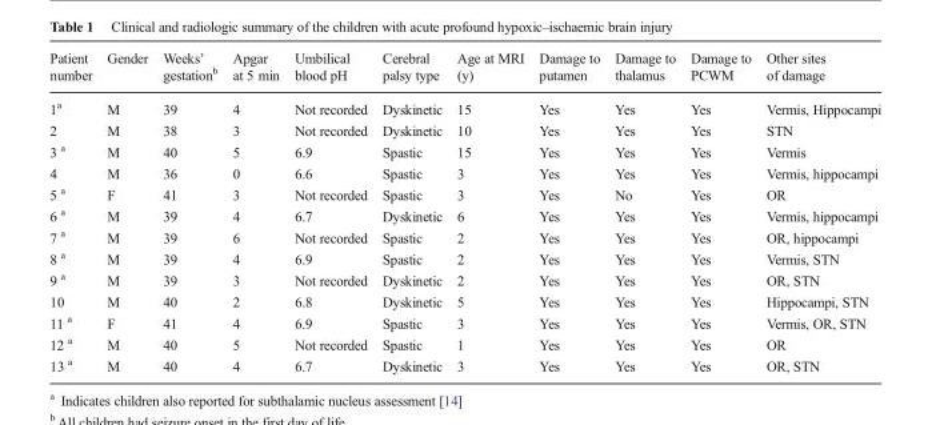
<table><thead><tr><td>Patient number</td><td>Gender</td><td>Weeks’ gestation<sup>b</sup></td><td>Apgar at 5 min</td><td>Umbilical blood pH</td><td>Cerebral palsy type</td><td>Age at MRI (y)</td><td>Damage to putamen</td><td>Damage to thalamus</td><td>Damage to PCWM</td><td>Other sites of damage</td></tr></thead><tbody><tr><td>1<sup>a</sup></td><td>M</td><td>39</td><td>4</td><td>Not recorded</td><td>Dyskinetic</td><td>15</td><td>Yes</td><td>Yes</td><td>Yes</td><td>Vermis, Hippocampi</td></tr><tr><td>2</td><td>M</td><td>38</td><td>3</td><td>Not recorded</td><td>Dyskinetic</td><td>10</td><td>Yes</td><td>Yes</td><td>Yes</td><td>STN</td></tr><tr><td>3 <sup>a</sup></td><td>M</td><td>40</td><td>5</td><td>6.9</td><td>Spastic</td><td>15</td><td>Yes</td><td>Yes</td><td>Yes</td><td>Vermis</td></tr><tr><td>4</td><td>M</td><td>36</td><td>0</td><td>6.6</td><td>Spastic</td><td>3</td><td>Yes</td><td>Yes</td><td>Yes</td><td>Vermis, hippocampi</td></tr><tr><td>5 <sup>a</sup></td><td>F</td><td>41</td><td>3</td><td>Not recorded</td><td>Spastic</td><td>3</td><td>Yes</td><td>No</td><td>Yes</td><td>OR</td></tr><tr><td>6 <sup>a</sup></td><td>M</td><td>39</td><td>4</td><td>6.7</td><td>Dyskinetic</td><td>6</td><td>Yes</td><td>Yes</td><td>Yes</td><td>Vermis, hippocampi</td></tr><tr><td>7 <sup>a</sup></td><td>M</td><td>39</td><td>6</td><td>Not recorded</td><td>Spastic</td><td>2</td><td>Yes</td><td>Yes</td><td>Yes</td><td>OR, hippocampi</td></tr><tr><td>8 <sup>a</sup></td><td>M</td><td>39</td><td>4</td><td>6.9</td><td>Spastic</td><td>2</td><td>Yes</td><td>Yes</td><td>Yes</td><td>Vermis, STN</td></tr><tr><td>9 <sup>a</sup></td><td>M</td><td>39</td><td>3</td><td>Not recorded</td><td>Dyskinetic</td><td>2</td><td>Yes</td><td>Yes</td><td>Yes</td><td>OR, STN</td></tr><tr><td>10</td><td>M</td><td>40</td><td>2</td><td>6.8</td><td>Dyskinetic</td><td>5</td><td>Yes</td><td>Yes</td><td>Yes</td><td>Hippocampi, STN</td></tr><tr><td>11 <sup>a</sup></td><td>F</td><td>41</td><td>4</td><td>6.9</td><td>Spastic</td><td>3</td><td>Yes</td><td>Yes</td><td>Yes</td><td>Vermis, OR, STN</td></tr><tr><td>12 <sup>a</sup></td><td>M</td><td>40</td><td>5</td><td>Not recorded</td><td>Spastic</td><td>1</td><td>Yes</td><td>Yes</td><td>Yes</td><td>OR</td></tr><tr><td>13 <sup>a</sup></td><td>M</td><td>40</td><td>4</td><td>6.7</td><td>Dyskinetic</td><td>3</td><td>Yes</td><td>Yes</td><td>Yes</td><td>OR, STN</td></tr></tbody></table>